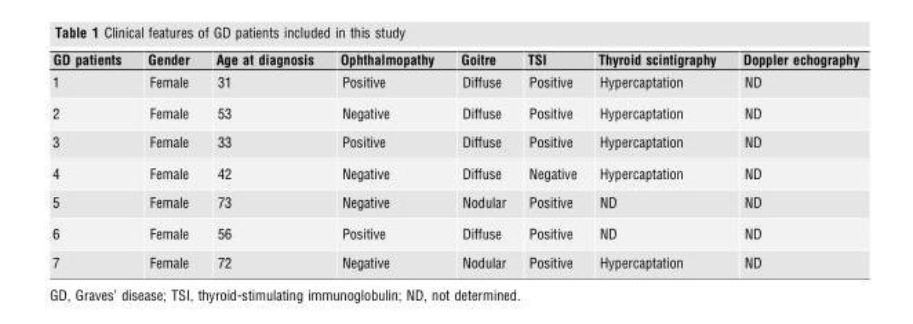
<table><thead><tr><td>GD patients</td><td>Gender</td><td>Age at diagnosis</td><td>Ophthalmopathy</td><td>Goitre</td><td>TSI</td><td>Thyroid scintigraphy</td><td>Doppler echography</td></tr></thead><tbody><tr><td>1</td><td>Female</td><td>31</td><td>Positive</td><td>Diffuse</td><td>Positive</td><td>Hypercaptation</td><td>ND</td></tr><tr><td>2</td><td>Female</td><td>53</td><td>Negative</td><td>Diffuse</td><td>Positive</td><td>Hypercaptation</td><td>ND</td></tr><tr><td>3</td><td>Female</td><td>33</td><td>Positive</td><td>Diffuse</td><td>Positive</td><td>Hypercaptation</td><td>ND</td></tr><tr><td>4</td><td>Female</td><td>42</td><td>Negative</td><td>Diffuse</td><td>Negative</td><td>Hypercaptation</td><td>ND</td></tr><tr><td>5</td><td>Female</td><td>73</td><td>Negative</td><td>Nodular</td><td>Positive</td><td>ND</td><td>ND</td></tr><tr><td>6</td><td>Female</td><td>56</td><td>Positive</td><td>Diffuse</td><td>Positive</td><td>ND</td><td>ND</td></tr><tr><td>7</td><td>Female</td><td>72</td><td>Negative</td><td>Nodular</td><td>Positive</td><td>Hypercaptation</td><td>ND</td></tr></tbody></table>